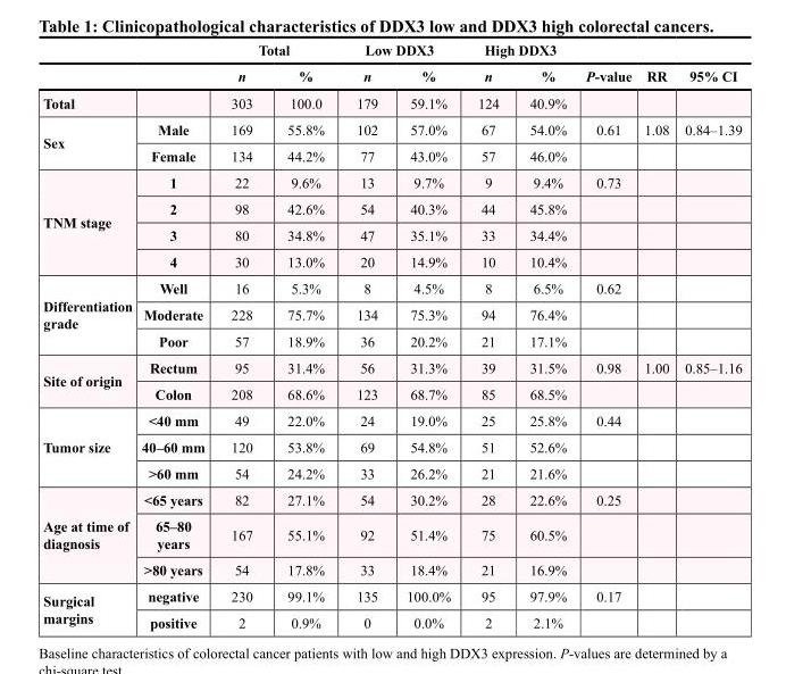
<table><thead><tr><td rowspan="2"></td><td rowspan="2"></td><td colspan="2">Total</td><td colspan="2">Low DDX3</td><td colspan="2">High DDX3</td><td rowspan="2">P-value</td><td rowspan="2">RR</td><td rowspan="2">95% CI</td></tr><tr><td>n</td><td>%</td><td>n</td><td>%</td><td>n</td><td>%</td></tr></thead><tbody><tr><td>Total</td><td></td><td>303</td><td>100.0</td><td>179</td><td>59.1%</td><td>124</td><td>40.9%</td><td></td><td></td><td></td></tr><tr><td rowspan="2">Sex</td><td>Male</td><td>169</td><td>55.8%</td><td>102</td><td>57.0%</td><td>67</td><td>54.0%</td><td>0.61</td><td>1.08</td><td>0.84–1.39</td></tr><tr><td>Female</td><td>134</td><td>44.2%</td><td>77</td><td>43.0%</td><td>57</td><td>46.0%</td><td></td><td></td><td></td></tr><tr><td rowspan="4">TNM stage</td><td>1</td><td>22</td><td>9.6%</td><td>13</td><td>9.7%</td><td>9</td><td>9.4%</td><td>0.73</td><td></td><td></td></tr><tr><td>2</td><td>98</td><td>42.6%</td><td>54</td><td>40.3%</td><td>44</td><td>45.8%</td><td></td><td></td><td></td></tr><tr><td>3</td><td>80</td><td>34.8%</td><td>47</td><td>35.1%</td><td>33</td><td>34.4%</td><td></td><td></td><td></td></tr><tr><td>4</td><td>30</td><td>13.0%</td><td>20</td><td>14.9%</td><td>10</td><td>10.4%</td><td></td><td></td><td></td></tr><tr><td rowspan="3">Differentiation grade</td><td>Well</td><td>16</td><td>5.3%</td><td>8</td><td>4.5%</td><td>8</td><td>6.5%</td><td>0.62</td><td></td><td></td></tr><tr><td>Moderate</td><td>228</td><td>75.7%</td><td>134</td><td>75.3%</td><td>94</td><td>76.4%</td><td></td><td></td><td></td></tr><tr><td>Poor</td><td>57</td><td>18.9%</td><td>36</td><td>20.2%</td><td>21</td><td>17.1%</td><td></td><td></td><td></td></tr><tr><td rowspan="2">Site of origin</td><td>Rectum</td><td>95</td><td>31.4%</td><td>56</td><td>31.3%</td><td>39</td><td>31.5%</td><td>0.98</td><td>1.00</td><td>0.85–1.16</td></tr><tr><td>Colon</td><td>208</td><td>68.6%</td><td>123</td><td>68.7%</td><td>85</td><td>68.5%</td><td></td><td></td><td></td></tr><tr><td rowspan="3">Tumor size</td><td>&lt;40 mm</td><td>49</td><td>22.0%</td><td>24</td><td>19.0%</td><td>25</td><td>25.8%</td><td>0.44</td><td></td><td></td></tr><tr><td>40–60 mm</td><td>120</td><td>53.8%</td><td>69</td><td>54.8%</td><td>51</td><td>52.6%</td><td></td><td></td><td></td></tr><tr><td>&gt;60 mm</td><td>54</td><td>24.2%</td><td>33</td><td>26.2%</td><td>21</td><td>21.6%</td><td></td><td></td><td></td></tr><tr><td rowspan="3">Age at time of diagnosis</td><td>&lt;65 years</td><td>82</td><td>27.1%</td><td>54</td><td>30.2%</td><td>28</td><td>22.6%</td><td>0.25</td><td></td><td></td></tr><tr><td>65–80 years</td><td>167</td><td>55.1%</td><td>92</td><td>51.4%</td><td>75</td><td>60.5%</td><td></td><td></td><td></td></tr><tr><td>&gt;80 years</td><td>54</td><td>17.8%</td><td>33</td><td>18.4%</td><td>21</td><td>16.9%</td><td></td><td></td><td></td></tr><tr><td rowspan="2">Surgical margins</td><td>negative</td><td>230</td><td>99.1%</td><td>135</td><td>100.0%</td><td>95</td><td>97.9%</td><td>0.17</td><td></td><td></td></tr><tr><td>positive</td><td>2</td><td>0.9%</td><td>0</td><td>0.0%</td><td>2</td><td>2.1%</td><td></td><td></td><td></td></tr></tbody></table>